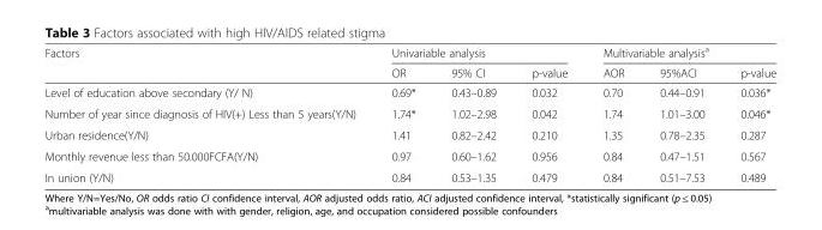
<table><thead><tr><td rowspan="2">Factors</td><td colspan="3">Univariable analysis</td><td colspan="3">Multivariable analysis<sup>a</sup></td></tr><tr><td>OR</td><td>95% CI</td><td>p-value</td><td>AOR</td><td>95%ACI</td><td>p-value</td></tr></thead><tbody><tr><td>Level of education above secondary (Y/ N)</td><td>0.69*</td><td>0.43–0.89</td><td>0.032</td><td>0.70</td><td>0.44–0.91</td><td>0.036*</td></tr><tr><td>Number of year since diagnosis of HIV(+) Less than 5 years(Y/N)</td><td>1.74*</td><td>1.02–2.98</td><td>0.042</td><td>1.74</td><td>1.01–3.00</td><td>0.046*</td></tr><tr><td>Urban residence(Y/N)</td><td>1.41</td><td>0.82–2.42</td><td>0.210</td><td>1.35</td><td>0.78–2.35</td><td>0.287</td></tr><tr><td>Monthly revenue less than 50.000FCFA(Y/N)</td><td>0.97</td><td>0.60–1.62</td><td>0.956</td><td>0.84</td><td>0.47–1.51</td><td>0.567</td></tr><tr><td>In union (Y/N)</td><td>0.84</td><td>0.53–1.35</td><td>0.479</td><td>0.84</td><td>0.51–7.53</td><td>0.489</td></tr></tbody></table>